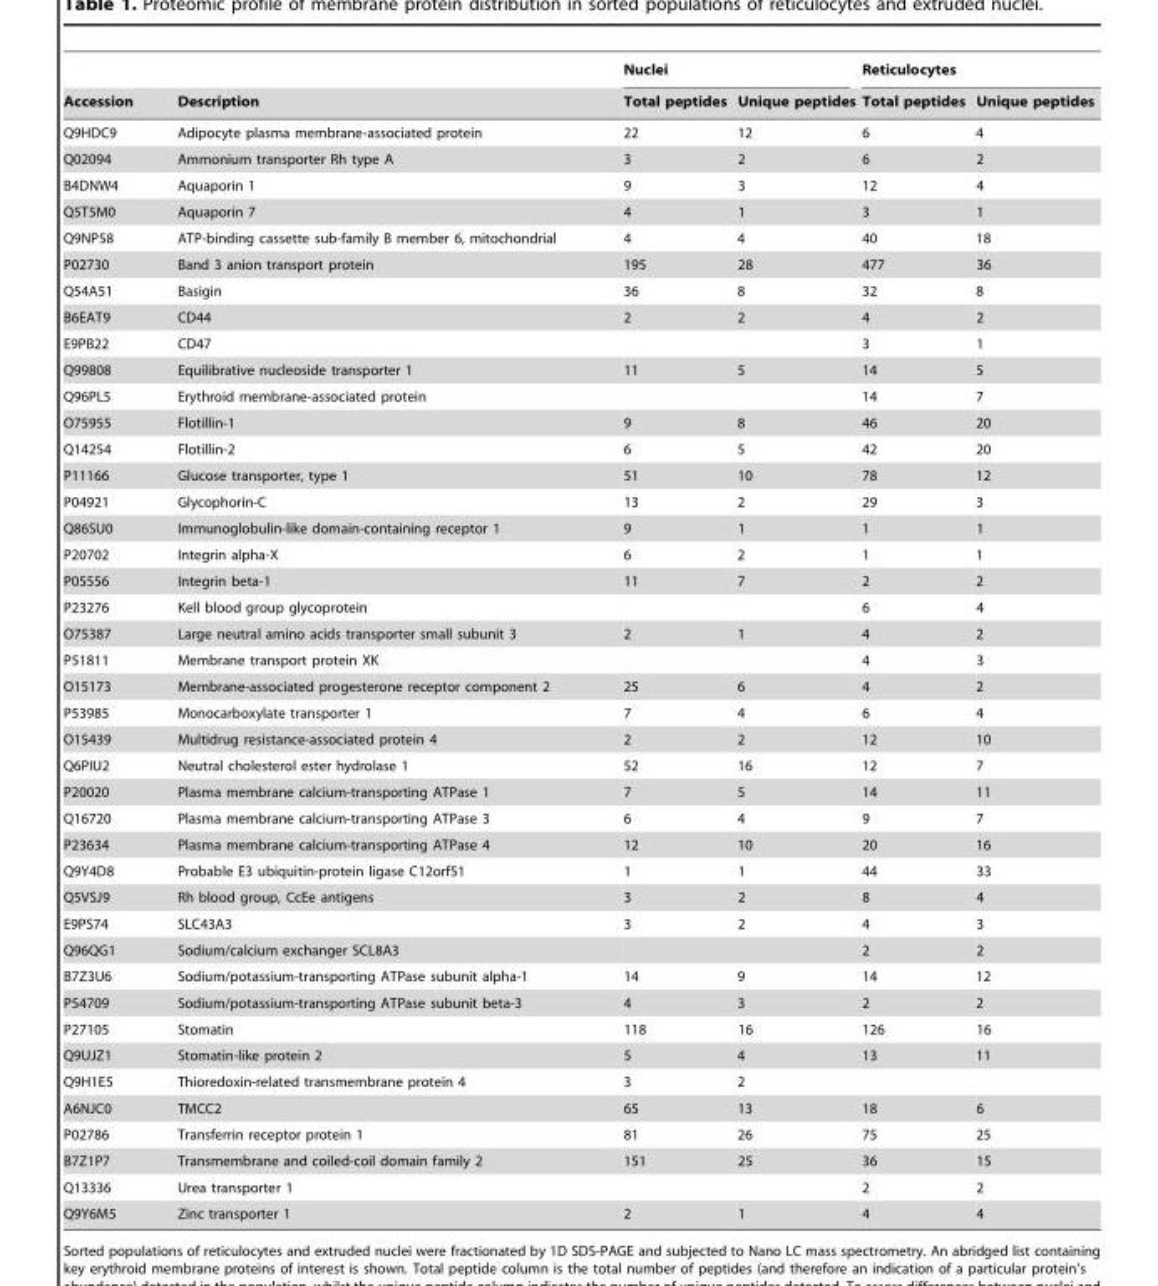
<table><thead><tr><td rowspan="2">Accession</td><td rowspan="2">Description</td><td colspan="2">Nuclei</td><td colspan="2">Reticulocytes</td></tr><tr><td>Total peptides</td><td>Unique peptides</td><td>Total peptides</td><td>Unique peptides</td></tr></thead><tbody><tr><td>Q9HDC9</td><td>Adipocyte plasma membrane-associated protein</td><td>22</td><td>12</td><td>6</td><td>4</td></tr><tr><td>Q02094</td><td>Ammonium transporter Rh type A</td><td>3</td><td>2</td><td>6</td><td>2</td></tr><tr><td>B4DNW4</td><td>Aquaporin 1</td><td>9</td><td>3</td><td>12</td><td>4</td></tr><tr><td>Q5T5M0</td><td>Aquaporin 7</td><td>4</td><td>1</td><td>3</td><td>1</td></tr><tr><td>Q9NP58</td><td>ATP-binding cassette sub-family B member 6, mitochondrial</td><td>4</td><td>4</td><td>40</td><td>18</td></tr><tr><td>P02730</td><td>Band 3 anion transport protein</td><td>195</td><td>28</td><td>477</td><td>36</td></tr><tr><td>Q54A51</td><td>Basigin</td><td>36</td><td>8</td><td>32</td><td>8</td></tr><tr><td>B6EAT9</td><td>CD44</td><td>2</td><td>2</td><td>4</td><td>2</td></tr><tr><td>E9PB22</td><td>CD47</td><td></td><td></td><td>3</td><td>1</td></tr><tr><td>Q99808</td><td>Equilibrative nucleoside transporter 1</td><td>11</td><td>5</td><td>14</td><td>5</td></tr><tr><td>Q96PL5</td><td>Erythroid membrane-associated protein</td><td></td><td></td><td>14</td><td>7</td></tr><tr><td>O75955</td><td>Flotillin-1</td><td>9</td><td>8</td><td>46</td><td>20</td></tr><tr><td>Q14254</td><td>Flotillin-2</td><td>6</td><td>5</td><td>42</td><td>20</td></tr><tr><td>P11166</td><td>Glucose transporter, type 1</td><td>51</td><td>10</td><td>78</td><td>12</td></tr><tr><td>P04921</td><td>Glycophorin-C</td><td>13</td><td>2</td><td>29</td><td>3</td></tr><tr><td>Q86SU0</td><td>Immunoglobulin-like domain-containing receptor 1</td><td>9</td><td>1</td><td>1</td><td>1</td></tr><tr><td>P20702</td><td>Integrin alpha-X</td><td>6</td><td>2</td><td>1</td><td>1</td></tr><tr><td>P05556</td><td>Integrin beta-1</td><td>11</td><td>7</td><td>2</td><td>2</td></tr><tr><td>P23276</td><td>Kell blood group glycoprotein</td><td></td><td></td><td>6</td><td>4</td></tr><tr><td>O75387</td><td>Large neutral amino acids transporter small subunit 3</td><td>2</td><td>1</td><td>4</td><td>2</td></tr><tr><td>P51811</td><td>Membrane transport protein XK</td><td></td><td></td><td>4</td><td>3</td></tr><tr><td>O15173</td><td>Membrane-associated progesterone receptor component 2</td><td>25</td><td>6</td><td>4</td><td>2</td></tr><tr><td>P53985</td><td>Monocarboxylate transporter 1</td><td>7</td><td>4</td><td>6</td><td>4</td></tr><tr><td>O15439</td><td>Multidrug resistance-associated protein 4</td><td>2</td><td>2</td><td>12</td><td>10</td></tr><tr><td>Q6PIU2</td><td>Neutral cholesterol ester hydrolase 1</td><td>52</td><td>16</td><td>12</td><td>7</td></tr><tr><td>P20020</td><td>Plasma membrane calcium-transporting ATPase 1</td><td>7</td><td>5</td><td>14</td><td>11</td></tr><tr><td>Q16720</td><td>Plasma membrane calcium-transporting ATPase 3</td><td>6</td><td>4</td><td>9</td><td>7</td></tr><tr><td>P23634</td><td>Plasma membrane calcium-transporting ATPase 4</td><td>12</td><td>10</td><td>20</td><td>16</td></tr><tr><td>Q9Y4D8</td><td>Probable E3 ubiquitin-protein ligase C12orf51</td><td>1</td><td>1</td><td>44</td><td>33</td></tr><tr><td>Q5VSJ9</td><td>Rh blood group, CcEe antigens</td><td>3</td><td>2</td><td>8</td><td>4</td></tr><tr><td>E9PS74</td><td>SLC43A3</td><td>3</td><td>2</td><td>4</td><td>3</td></tr><tr><td>Q96QG1</td><td>Sodium/calcium exchanger SCL8A3</td><td></td><td></td><td>2</td><td>2</td></tr><tr><td>B7Z3U6</td><td>Sodium/potassium-transporting ATPase subunit alpha-1</td><td>14</td><td>9</td><td>14</td><td>12</td></tr><tr><td>P54709</td><td>Sodium/potassium-transporting ATPase subunit beta-3</td><td>4</td><td>3</td><td>2</td><td>2</td></tr><tr><td>P27105</td><td>Stomatin</td><td>118</td><td>16</td><td>126</td><td>16</td></tr><tr><td>Q9UJZ1</td><td>Stomatin-like protein 2</td><td>5</td><td>4</td><td>13</td><td>11</td></tr><tr><td>Q9H1E5</td><td>Thioredoxin-related transmembrane protein 4</td><td>3</td><td>2</td><td></td><td></td></tr><tr><td>A6NJC0</td><td>TMCC2</td><td>65</td><td>13</td><td>18</td><td>6</td></tr><tr><td>P02786</td><td>Transferrin receptor protein 1</td><td>81</td><td>26</td><td>75</td><td>25</td></tr><tr><td>B7Z1P7</td><td>Transmembrane and coiled-coil domain family 2</td><td>151</td><td>25</td><td>36</td><td>15</td></tr><tr><td>Q13336</td><td>Urea transporter 1</td><td></td><td></td><td>2</td><td>2</td></tr><tr><td>Q9Y6M5</td><td>Zinc transporter 1</td><td>2</td><td>1</td><td>4</td><td>4</td></tr></tbody></table>